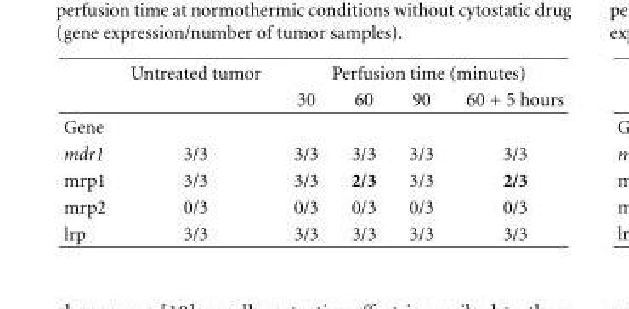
<table><thead><tr><td rowspan="2"></td><td rowspan="2">Untreated tumor</td><td colspan="4">Perfusion time (minutes)</td></tr><tr><td>30</td><td>60</td><td>90</td><td>60 + 5 hours</td></tr></thead><tbody><tr><td colspan="6">Gene</td></tr><tr><td>mdr1</td><td>3/3</td><td>3/3</td><td>3/3</td><td>3/3</td><td>3/3</td></tr><tr><td>mrp1</td><td>3/3</td><td>3/3</td><td>2/3</td><td>3/3</td><td>2/3</td></tr><tr><td>mrp2</td><td>0/3</td><td>0/3</td><td>0/3</td><td>0/3</td><td>0/3</td></tr><tr><td>lrp</td><td>3/3</td><td>3/3</td><td>3/3</td><td>3/3</td><td>3/3</td></tr></tbody></table>